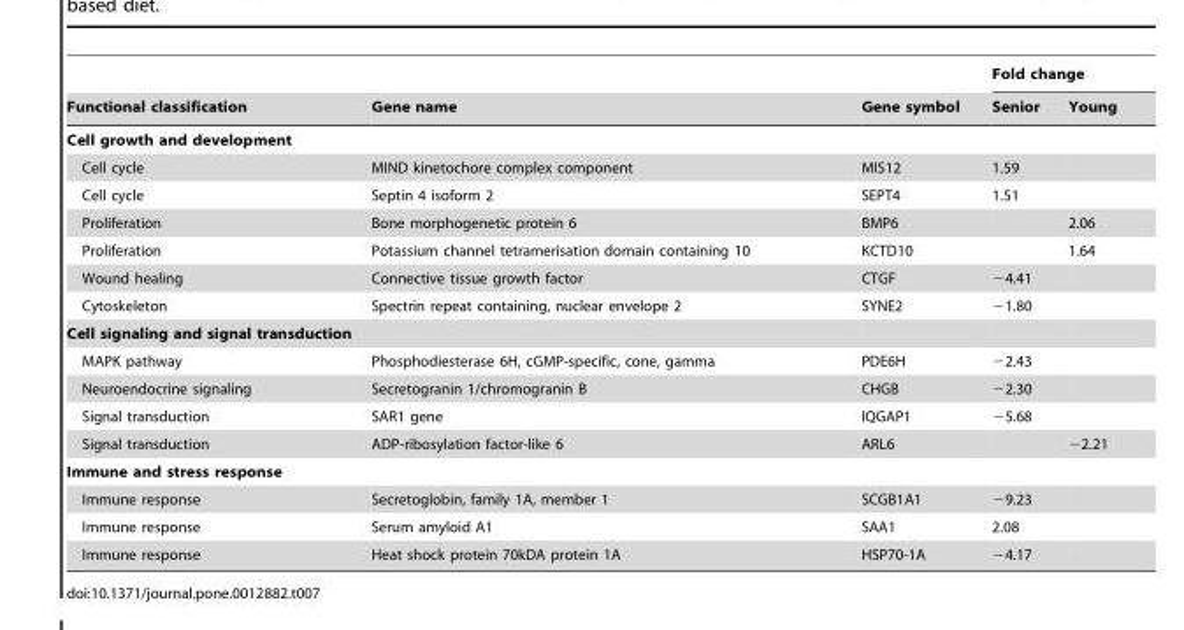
<table><thead><tr><td rowspan="2">Functional classification</td><td rowspan="2">Gene name</td><td rowspan="2">Gene symbol</td><td colspan="2">Fold change</td></tr><tr><td>Senior</td><td>Young</td></tr></thead><tbody><tr><td colspan="5">Cell growth and development</td></tr><tr><td>Cell cycle</td><td>MIND kinetochore complex component</td><td>MIS12</td><td>1.59</td><td></td></tr><tr><td>Cell cycle</td><td>Septin 4 isoform 2</td><td>SEPT4</td><td>1.51</td><td></td></tr><tr><td>Proliferation</td><td>Bone morphogenetic protein 6</td><td>BMP6</td><td></td><td>2.06</td></tr><tr><td>Proliferation</td><td>Potassium channel tetramerisation domain containing 10</td><td>KCTD10</td><td></td><td>1.64</td></tr><tr><td>Wound healing</td><td>Connective tissue growth factor</td><td>CTGF</td><td>−4.41</td><td></td></tr><tr><td>Cytoskeleton</td><td>Spectrin repeat containing, nuclear envelope 2</td><td>SYNE2</td><td>−1.80</td><td></td></tr><tr><td colspan="5">Cell signaling and signal transduction</td></tr><tr><td>MAPK pathway</td><td>Phosphodiesterase 6H, cGMP-specific, cone, gamma</td><td>PDE6H</td><td>−2.43</td><td></td></tr><tr><td>Neuroendocrine signaling</td><td>Secretogranin 1/chromogranin B</td><td>CHGB</td><td>−2.30</td><td></td></tr><tr><td>Signal transduction</td><td>SAR1 gene</td><td>IQGAP1</td><td>−5.68</td><td></td></tr><tr><td>Signal transduction</td><td>ADP-ribosylation factor-like 6</td><td>ARL6</td><td></td><td>−2.21</td></tr><tr><td colspan="5">Immune and stress response</td></tr><tr><td>Immune response</td><td>Secretoglobin, family 1A, member 1</td><td>SCGB1A1</td><td>−9.23</td><td></td></tr><tr><td>Immune response</td><td>Serum amyloid A1</td><td>SAA1</td><td>2.08</td><td></td></tr><tr><td>Immune response</td><td>Heat shock protein 70kDA protein 1A</td><td>HSP70-1A</td><td>−4.17</td><td></td></tr></tbody></table>